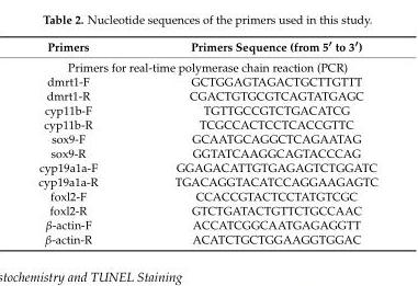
<table><thead><tr><td>Primers</td><td>Primers Sequence (from 5′ to 3′)</td></tr></thead><tbody><tr><td colspan="2">Primers for real-time polymerase chain reaction (PCR)</td></tr><tr><td>dmrt1-F</td><td>GCTGGAGTAGACTGCTTGTTT</td></tr><tr><td>dmrt1-R</td><td>CGACTGTGCGTCAGTATGAGC</td></tr><tr><td>cyp11b-F</td><td>TGTTGCCGTCTGACATCG</td></tr><tr><td>cyp11b-R</td><td>TCGCCACTCCTCACCGTTC</td></tr><tr><td>sox9-F</td><td>GCAATGCAGGCTCAGAATAG</td></tr><tr><td>sox9-R</td><td>GGTATCAAGGCAGTACCCAG</td></tr><tr><td>cyp19a1a-F</td><td>GGAGACATTGTGAGAGTCTGGATC</td></tr><tr><td>cyp19a1a-R</td><td>TGACAGGTACATCCAGGAAGAGTC</td></tr><tr><td>foxl2-F</td><td>CCACCGTACTCCTATGTCGC</td></tr><tr><td>foxl2-R</td><td>GTCTGATACTGTTCTGCCAAC</td></tr><tr><td>β-actin-F</td><td>ACCATCGGCAATGAGAGGTT</td></tr><tr><td>β-actin-R</td><td>ACATCTGCTGGAAGGTGGAC</td></tr></tbody></table>